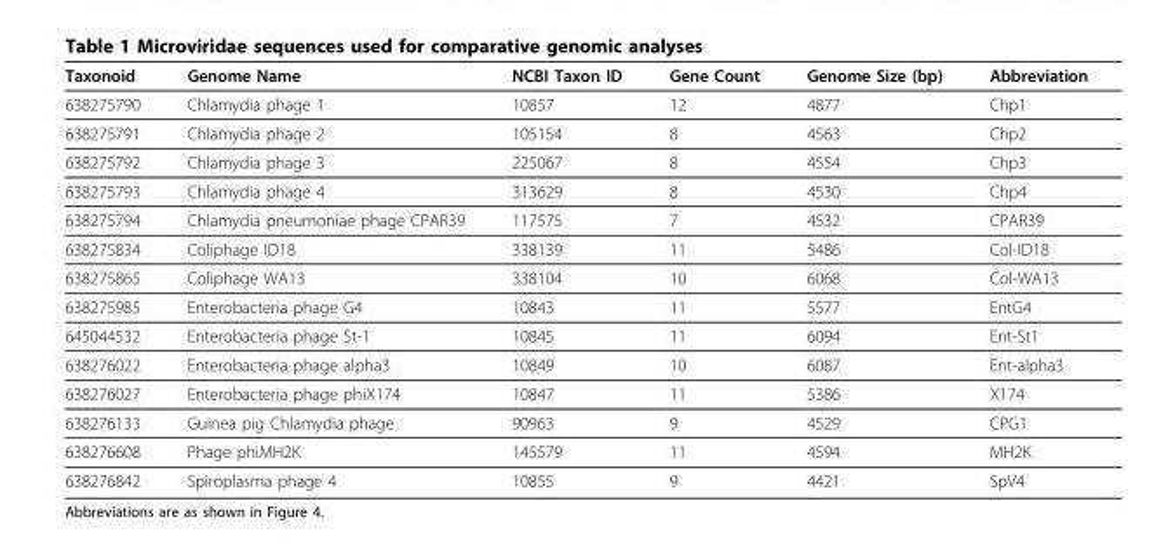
<table><thead><tr><td>Taxonoid</td><td>Genome Name</td><td>NCBI Taxon ID</td><td>Gene Count</td><td>Genome Size (bp)</td><td>Abbreviation</td></tr></thead><tbody><tr><td>638275790</td><td>Chlamydia phage 1</td><td>10857</td><td>12</td><td>4877</td><td>Chp1</td></tr><tr><td>638275791</td><td>Chlamydia phage 2</td><td>105154</td><td>8</td><td>4563</td><td>Chp2</td></tr><tr><td>638275792</td><td>Chlamydia phage 3</td><td>225067</td><td>8</td><td>4554</td><td>Chp3</td></tr><tr><td>638275793</td><td>Chlamydia phage 4</td><td>313629</td><td>8</td><td>4530</td><td>Chp4</td></tr><tr><td>638275794</td><td>Chlamydia pneumoniae phage CPAR39</td><td>117575</td><td>7</td><td>4532</td><td>CPAR39</td></tr><tr><td>638275834</td><td>Coliphage ID18</td><td>338139</td><td>11</td><td>5486</td><td>Col-ID18</td></tr><tr><td>638275865</td><td>Coliphage WA13</td><td>338104</td><td>10</td><td>6068</td><td>Col-WA13</td></tr><tr><td>638275985</td><td>Enterobacteria phage G4</td><td>10843</td><td>11</td><td>5577</td><td>EntG4</td></tr><tr><td>645044532</td><td>Enterobacteria phage St-1</td><td>10845</td><td>11</td><td>6094</td><td>Ent-St1</td></tr><tr><td>638276022</td><td>Enterobacteria phage alpha3</td><td>10849</td><td>10</td><td>6087</td><td>Ent-alpha3</td></tr><tr><td>638276027</td><td>Enterobacteria phage phiX174</td><td>10847</td><td>11</td><td>5386</td><td>X174</td></tr><tr><td>638276133</td><td>Guinea pig Chlamydia phage</td><td>90963</td><td>9</td><td>4529</td><td>CPG1</td></tr><tr><td>638276608</td><td>Phage phiMH2K</td><td>145579</td><td>11</td><td>4594</td><td>MH2K</td></tr><tr><td>638276842</td><td>Spiroplasma phage 4</td><td>10855</td><td>9</td><td>4421</td><td>SpV4</td></tr></tbody></table>